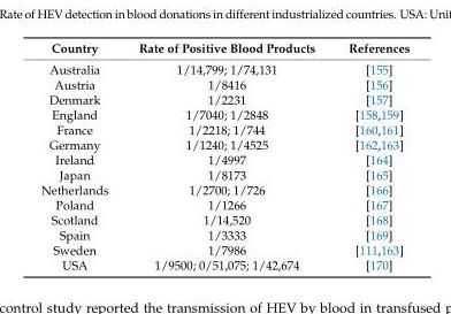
<table><thead><tr><td>Country</td><td>Rate of Positive Blood Products</td><td>References</td></tr></thead><tbody><tr><td>Australia</td><td>1/14,799; 1/74,131</td><td>[155]</td></tr><tr><td>Austria</td><td>1/8416</td><td>[156]</td></tr><tr><td>Denmark</td><td>1/2231</td><td>[157]</td></tr><tr><td>England</td><td>1/7040; 1/2848</td><td>[158,159]</td></tr><tr><td>France</td><td>1/2218; 1/744</td><td>[160,161]</td></tr><tr><td>Germany</td><td>1/1240; 1/4525</td><td>[162,163]</td></tr><tr><td>Ireland</td><td>1/4997</td><td>[164]</td></tr><tr><td>Japan</td><td>1/8173</td><td>[165]</td></tr><tr><td>Netherlands</td><td>1/2700; 1/726</td><td>[166]</td></tr><tr><td>Poland</td><td>1/1266</td><td>[167]</td></tr><tr><td>Scotland</td><td>1/14,520</td><td>[168]</td></tr><tr><td>Spain</td><td>1/3333</td><td>[169]</td></tr><tr><td>Sweden</td><td>1/7986</td><td>[111,163]</td></tr><tr><td>USA</td><td>1/9500; 0/51,075; 1/42,674</td><td>[170]</td></tr></tbody></table>